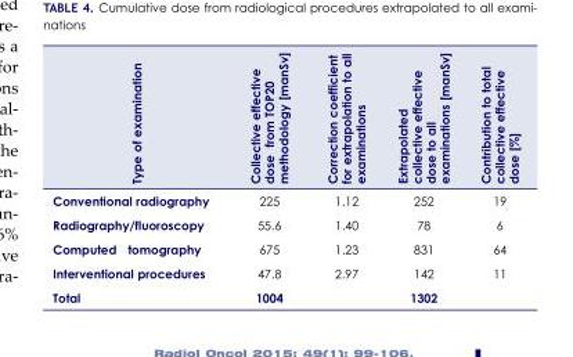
<table><thead><tr><td>Type of examination</td><td>Collective effective dose from TOP20 methodology [manSv]</td><td>Correction coefficient for extrapolation to all examinations</td><td>Extrapolated collective effective dose to all examinations [manSv]</td><td>Contribution to total collective effective dose [%]</td></tr></thead><tbody><tr><td>Conventional radiography</td><td>225</td><td>1.12</td><td>252</td><td>19</td></tr><tr><td>Radiography/fluoroscopy</td><td>55.6</td><td>1.40</td><td>78</td><td>6</td></tr><tr><td>Computed tomography</td><td>675</td><td>1.23</td><td>831</td><td>64</td></tr><tr><td>Interventional procedures</td><td>47.8</td><td>2.97</td><td>142</td><td>11</td></tr><tr><td>Total</td><td>1004</td><td></td><td>1302</td><td></td></tr></tbody></table>